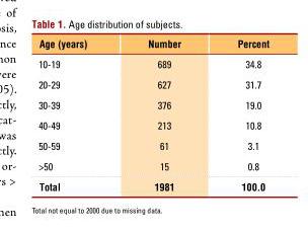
<table><thead><tr><td>Age (years)</td><td>Number</td><td>Percent</td></tr></thead><tbody><tr><td>10-19</td><td>689</td><td>34.8</td></tr><tr><td>20-29</td><td>627</td><td>31.7</td></tr><tr><td>30-39</td><td>376</td><td>19.0</td></tr><tr><td>40-49</td><td>213</td><td>10.8</td></tr><tr><td>50-59</td><td>61</td><td>3.1</td></tr><tr><td>&gt;50</td><td>15</td><td>0.8</td></tr><tr><td>Total</td><td>1981</td><td>100.0</td></tr></tbody></table>